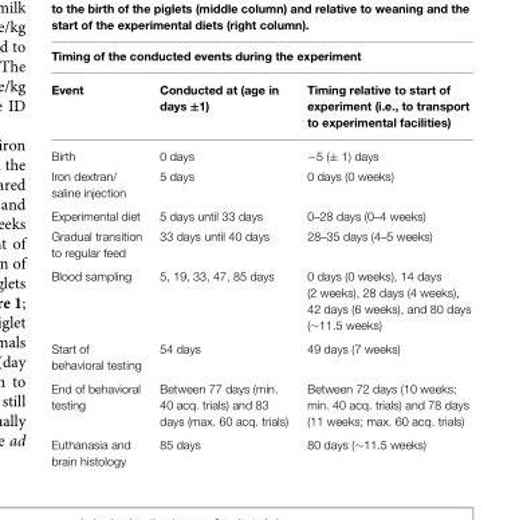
<table><thead><tr><td colspan="3">Timing of the conducted events during the experiment</td></tr><tr><td>Event</td><td>Conducted at (age in days ±1)</td><td>Timing relative to start of experiment (i.e., to transport to experimental facilities)</td></tr></thead><tbody><tr><td>Birth</td><td>0 days</td><td>−5 (± 1) days</td></tr><tr><td>Iron dextran/ saline injection</td><td>5 days</td><td>0 days (0 weeks)</td></tr><tr><td>Experimental diet</td><td>5 days until 33 days</td><td>0–28 days (0–4 weeks)</td></tr><tr><td>Gradual transition to regular feed</td><td>33 days until 40 days</td><td>28–35 days (4–5 weeks)</td></tr><tr><td>Blood sampling</td><td>5, 19, 33, 47, 85 days</td><td>0 days (0 weeks), 14 days (2 weeks), 28 days (4 weeks), 42 days (6 weeks), and 80 days (∼11.5 weeks)</td></tr><tr><td>Start of behavioral testing</td><td>54 days</td><td>49 days (7 weeks)</td></tr><tr><td>End of behavioral testing</td><td>Between 77 days (min. 40 acq. trials) and 83 days (max. 60 acq. trials)</td><td>Between 72 days (10 weeks; min. 40 acq. trials) and 78 days (11 weeks; max. 60 acq. trials)</td></tr><tr><td>Euthanasia and brain histology</td><td>85 days</td><td>80 days (∼11.5 weeks)</td></tr></tbody></table>